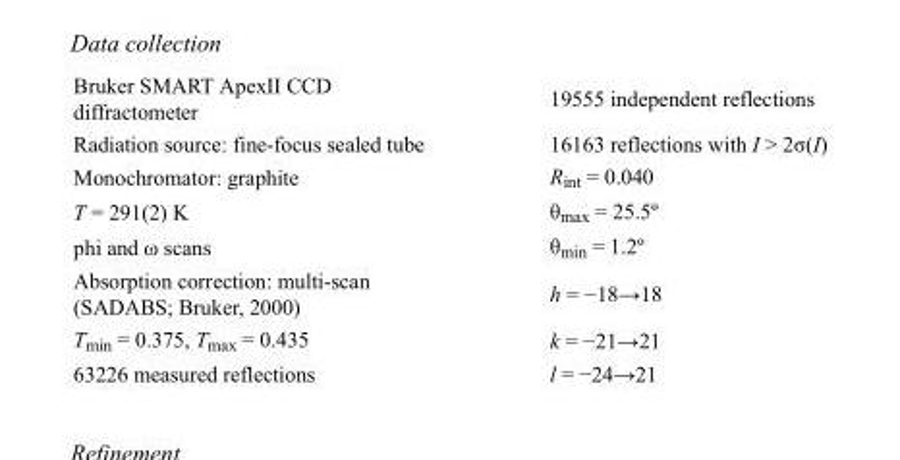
<table><tbody><tr><td>Bruker SMART ApexII CCD diffractometer</td><td>19555 independent reflections</td></tr><tr><td>Radiation source: fine-focus sealed tube</td><td>16163 reflections with I &gt; 2σ(I)</td></tr><tr><td>Monochromator: graphite</td><td>R<sub>int</sub> = 0.040</td></tr><tr><td>T = 291(2) K</td><td>θ<sub>max</sub> = 25.5º</td></tr><tr><td>phi and ω scans</td><td>θ<sub>min</sub> = 1.2º</td></tr><tr><td>Absorption correction: multi-scan (SADABS; Bruker, 2000)</td><td>h = −18→18</td></tr><tr><td>T<sub>min</sub> = 0.375, T<sub>max</sub> = 0.435</td><td>k = −21→21</td></tr><tr><td>63226 measured reflections</td><td>l = −24→21</td></tr></tbody></table>